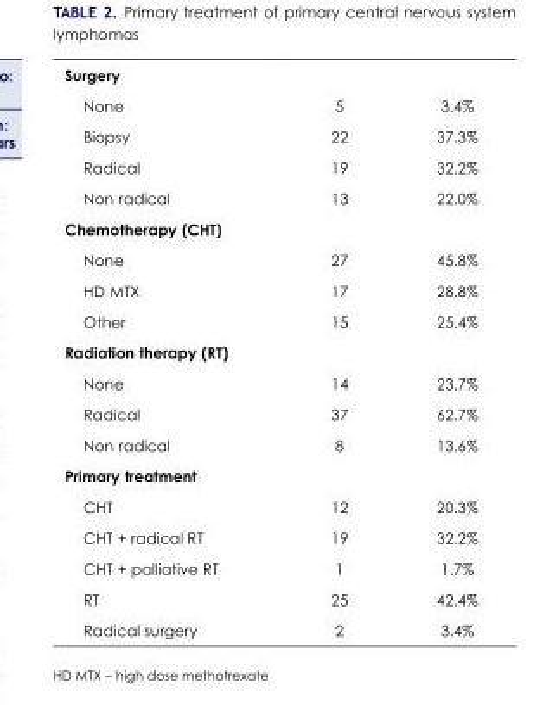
<table><tbody><tr><td colspan="3">Surgery</td></tr><tr><td>None</td><td>5</td><td>3.4%</td></tr><tr><td>Biopsy</td><td>22</td><td>37.3%</td></tr><tr><td>Radical</td><td>19</td><td>32.2%</td></tr><tr><td>Non radical</td><td>13</td><td>22.0%</td></tr><tr><td colspan="3">Chemotherapy (CHT)</td></tr><tr><td>None</td><td>27</td><td>45.8%</td></tr><tr><td>HD MTX</td><td>17</td><td>28.8%</td></tr><tr><td>Other</td><td>15</td><td>25.4%</td></tr><tr><td colspan="3">Radiation therapy (RT)</td></tr><tr><td>None</td><td>14</td><td>23.7%</td></tr><tr><td>Radical</td><td>37</td><td>62.7%</td></tr><tr><td>Non radical</td><td>8</td><td>13.6%</td></tr><tr><td colspan="3">Primary treatment</td></tr><tr><td>CHT</td><td>12</td><td>20.3%</td></tr><tr><td>CHT + radical RT</td><td>19</td><td>32.2%</td></tr><tr><td>CHT + palliative RT</td><td>1</td><td>1.7%</td></tr><tr><td>RT</td><td>25</td><td>42.4%</td></tr><tr><td>Radical surgery</td><td>2</td><td>3.4%</td></tr></tbody></table>